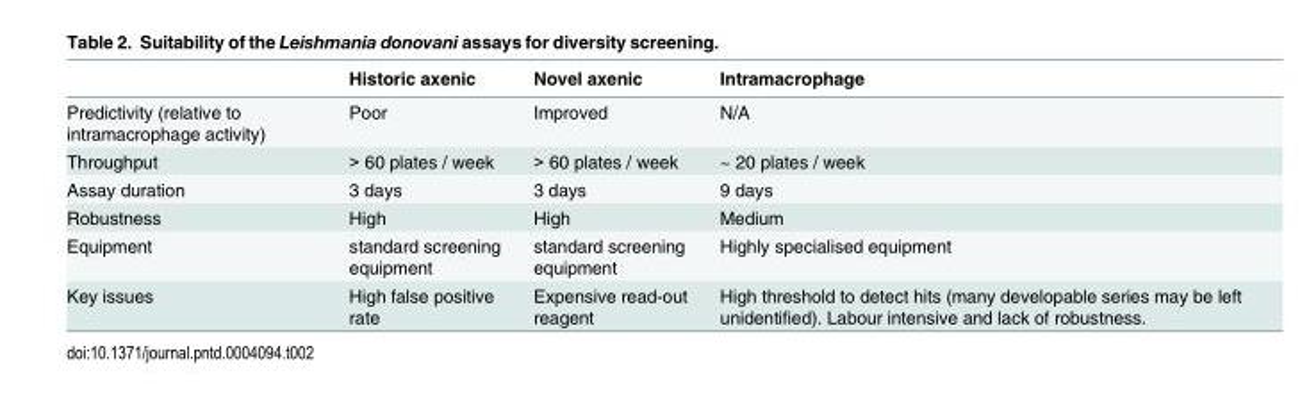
<table><thead><tr><td></td><td>Historic axenic</td><td>Novel axenic</td><td>Intramacrophage</td></tr></thead><tbody><tr><td>Predictivity (relative to intramacrophage activity)</td><td>Poor</td><td>Improved</td><td>N/A</td></tr><tr><td>Throughput</td><td>&gt; 60 plates / week</td><td>&gt; 60 plates / week</td><td>~ 20 plates / week</td></tr><tr><td>Assay duration</td><td>3 days</td><td>3 days</td><td>9 days</td></tr><tr><td>Robustness</td><td>High</td><td>High</td><td>Medium</td></tr><tr><td>Equipment</td><td>standard screening equipment</td><td>standard screening equipment</td><td>Highly specialised equipment</td></tr><tr><td>Key issues</td><td>High false positive rate</td><td>Expensive read-out reagent</td><td>High threshold to detect hits (many developable series may be left unidentified). Labour intensive and lack of robustness.</td></tr></tbody></table>